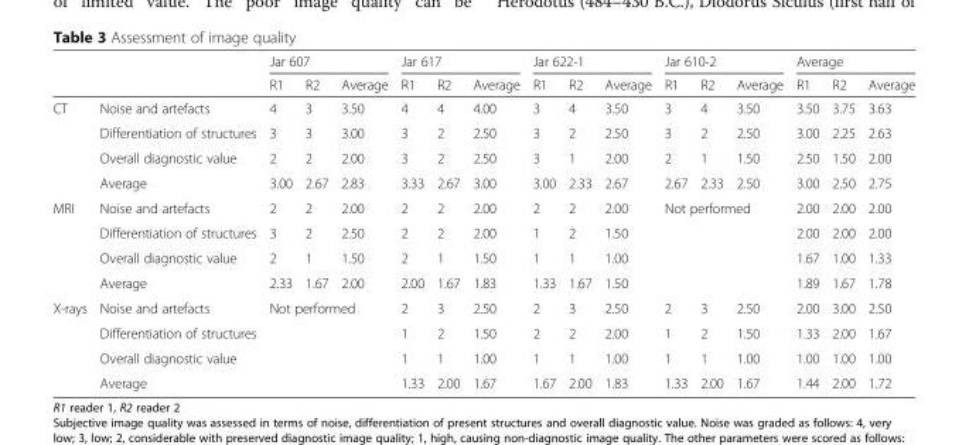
<table><thead><tr><td rowspan="2"></td><td rowspan="2"></td><td colspan="3">Jar 607</td><td colspan="3">Jar 617</td><td colspan="3">Jar 622-1</td><td colspan="3">Jar 610-2</td><td colspan="3">Average</td></tr><tr><td>R1</td><td>R2</td><td>Average</td><td>R1</td><td>R2</td><td>Average</td><td>R1</td><td>R2</td><td>Average</td><td>R1</td><td>R2</td><td>Average</td><td>R1</td><td>R2</td><td>Average</td></tr></thead><tbody><tr><td rowspan="4">CT</td><td>Noise and artefacts</td><td>4</td><td>3</td><td>3.50</td><td>4</td><td>4</td><td>4.00</td><td>3</td><td>4</td><td>3.50</td><td>3</td><td>4</td><td>3.50</td><td>3.50</td><td>3.75</td><td>3.63</td></tr><tr><td>Differentiation of structures</td><td>3</td><td>3</td><td>3.00</td><td>3</td><td>2</td><td>2.50</td><td>3</td><td>2</td><td>2.50</td><td>3</td><td>2</td><td>2.50</td><td>3.00</td><td>2.25</td><td>2.63</td></tr><tr><td>Overall diagnostic value</td><td>2</td><td>2</td><td>2.00</td><td>3</td><td>2</td><td>2.50</td><td>3</td><td>1</td><td>2.00</td><td>2</td><td>1</td><td>1.50</td><td>2.50</td><td>1.50</td><td>2.00</td></tr><tr><td>Average</td><td>3.00</td><td>2.67</td><td>2.83</td><td>3.33</td><td>2.67</td><td>3.00</td><td>3.00</td><td>2.33</td><td>2.67</td><td>2.67</td><td>2.33</td><td>2.50</td><td>3.00</td><td>2.50</td><td>2.75</td></tr><tr><td rowspan="4">MRI</td><td>Noise and artefacts</td><td>2</td><td>2</td><td>2.00</td><td>2</td><td>2</td><td>2.00</td><td>2</td><td>2</td><td>2.00</td><td rowspan="4" colspan="3">Not performed</td><td>2.00</td><td>2.00</td><td>2.00</td></tr><tr><td>Differentiation of structures</td><td>3</td><td>2</td><td>2.50</td><td>2</td><td>2</td><td>2.00</td><td>1</td><td>2</td><td>1.50</td><td>2.00</td><td>2.00</td><td>2.00</td></tr><tr><td>Overall diagnostic value</td><td>2</td><td>1</td><td>1.50</td><td>2</td><td>1</td><td>1.50</td><td>1</td><td>1</td><td>1.00</td><td>1.67</td><td>1.00</td><td>1.33</td></tr><tr><td>Average</td><td>2.33</td><td>1.67</td><td>2.00</td><td>2.00</td><td>1.67</td><td>1.83</td><td>1.33</td><td>1.67</td><td>1.50</td><td>1.89</td><td>1.67</td><td>1.78</td></tr><tr><td rowspan="4">X-rays</td><td>Noise and artefacts</td><td rowspan="4" colspan="3">Not performed</td><td>2</td><td>3</td><td>2.50</td><td>2</td><td>3</td><td>2.50</td><td>2</td><td>3</td><td>2.50</td><td>2.00</td><td>3.00</td><td>2.50</td></tr><tr><td>Differentiation of structures</td><td>1</td><td>2</td><td>1.50</td><td>2</td><td>2</td><td>2.00</td><td>1</td><td>2</td><td>1.50</td><td>1.33</td><td>2.00</td><td>1.67</td></tr><tr><td>Overall diagnostic value</td><td>1</td><td>1</td><td>1.00</td><td>1</td><td>1</td><td>1.00</td><td>1</td><td>1</td><td>1.00</td><td>1.00</td><td>1.00</td><td>1.00</td></tr><tr><td>Average</td><td>1.33</td><td>2.00</td><td>1.67</td><td>1.67</td><td>2.00</td><td>1.83</td><td>1.33</td><td>2.00</td><td>1.67</td><td>1.44</td><td>2.00</td><td>1.72</td></tr></tbody></table>